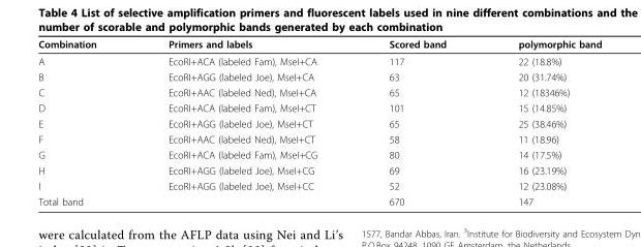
<table><thead><tr><td>Combination</td><td>Primers and labels</td><td>Scored band</td><td>polymorphic band</td></tr></thead><tbody><tr><td>A</td><td>EcoRI+ACA (labeled Fam), MseI+CA</td><td>117</td><td>22 (18.8%)</td></tr><tr><td>B</td><td>EcoRI+AGG (labeled Joe), MseI+CA</td><td>63</td><td>20 (31.74%)</td></tr><tr><td>C</td><td>EcoRI+AAC (labeled Ned), MseI+CA</td><td>65</td><td>12 (18346%)</td></tr><tr><td>D</td><td>EcoRI+ACA (labeled Fam), MseI+CT</td><td>101</td><td>15 (14.85%)</td></tr><tr><td>E</td><td>EcoRI+AGG (labeled Joe), MseI+CT</td><td>65</td><td>25 (38.46%)</td></tr><tr><td>F</td><td>EcoRI+AAC (labeled Ned), MseI+CT</td><td>58</td><td>11 (18.96)</td></tr><tr><td>G</td><td>EcoRI+ACA (labeled Fam), MseI+CG</td><td>80</td><td>14 (17.5%)</td></tr><tr><td>H</td><td>EcoRI+AGG (labeled Joe), MseI+CG</td><td>69</td><td>16 (23.19%)</td></tr><tr><td>I</td><td>EcoRI+AGG (labeled Joe), MseI+CC</td><td>52</td><td>12 (23.08%)</td></tr><tr><td colspan="2">Total band</td><td>670</td><td>147</td></tr></tbody></table>